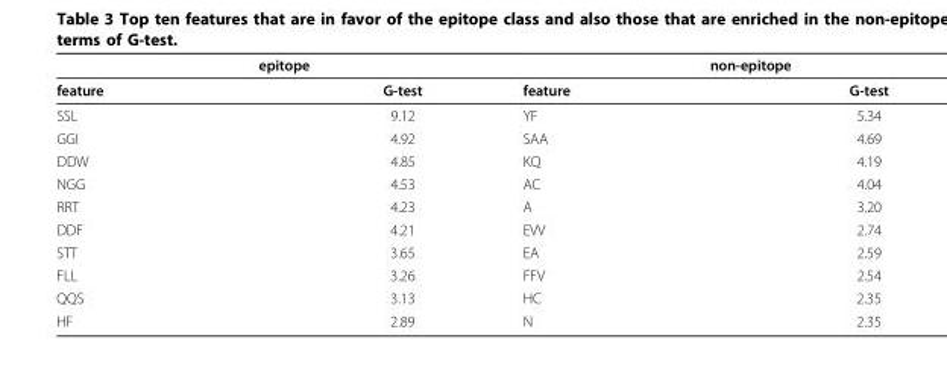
<table><thead><tr><td colspan="2">epitope</td><td colspan="2">non-epitope</td></tr><tr><td>feature</td><td>G-test</td><td>feature</td><td>G-test</td></tr></thead><tbody><tr><td>SSL</td><td>9.12</td><td>YF</td><td>5.34</td></tr><tr><td>GGI</td><td>4.92</td><td>SAA</td><td>4.69</td></tr><tr><td>DDW</td><td>4.85</td><td>KQ</td><td>4.19</td></tr><tr><td>NGG</td><td>4.53</td><td>AC</td><td>4.04</td></tr><tr><td>RRT</td><td>4.23</td><td>A</td><td>3.20</td></tr><tr><td>DDF</td><td>4.21</td><td>EVV</td><td>2.74</td></tr><tr><td>STT</td><td>3.65</td><td>EA</td><td>2.59</td></tr><tr><td>FLL</td><td>3.26</td><td>FFV</td><td>2.54</td></tr><tr><td>QQS</td><td>3.13</td><td>HC</td><td>2.35</td></tr><tr><td>HF</td><td>2.89</td><td>N</td><td>2.35</td></tr></tbody></table>